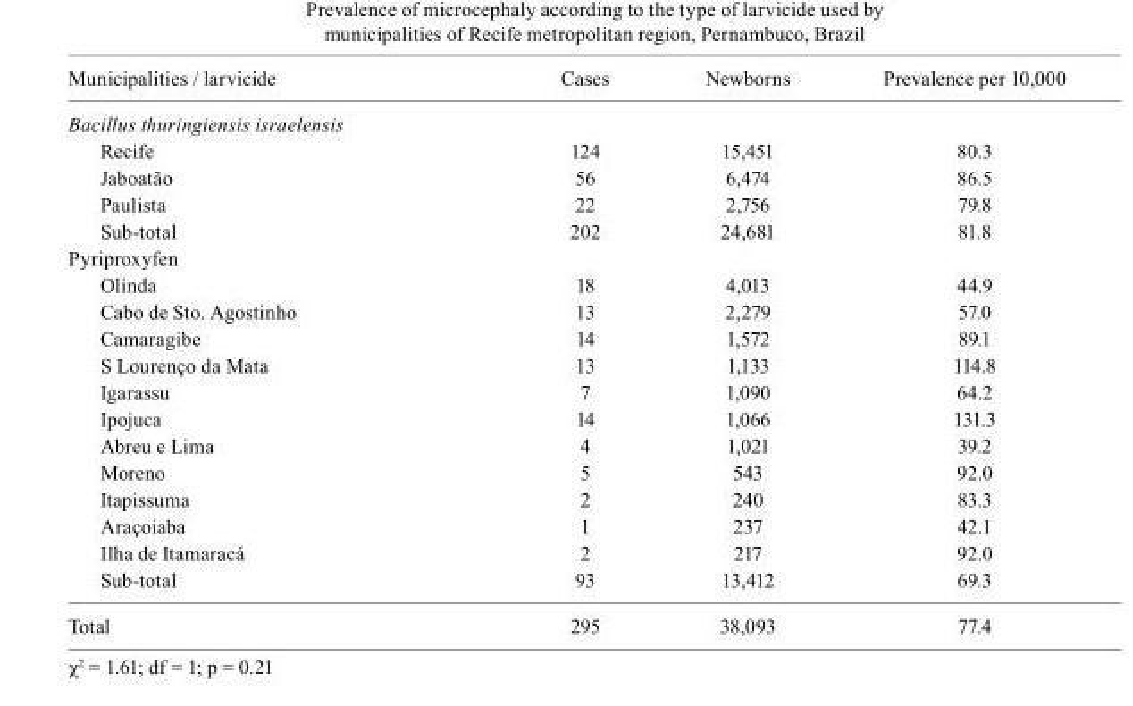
<table><thead><tr><td>Municipalities / larvicide</td><td>Cases</td><td>Newborns</td><td>Prevalence per 10,000</td></tr></thead><tbody><tr><td colspan="4">Bacillus thuringiensis israelensis</td></tr><tr><td>Recife</td><td>124</td><td>15,451</td><td>80.3</td></tr><tr><td>Jaboatão</td><td>56</td><td>6,474</td><td>86.5</td></tr><tr><td>Paulista</td><td>22</td><td>2,756</td><td>79.8</td></tr><tr><td>Sub-total</td><td>202</td><td>24,681</td><td>81.8</td></tr><tr><td colspan="4">Pyriproxyfen</td></tr><tr><td>Olinda</td><td>18</td><td>4,013</td><td>44.9</td></tr><tr><td>Cabo de Sto. Agostinho</td><td>13</td><td>2,279</td><td>57.0</td></tr><tr><td>Camaragibe</td><td>14</td><td>1,572</td><td>89.1</td></tr><tr><td>S Lourenço da Mata</td><td>13</td><td>1,133</td><td>114.8</td></tr><tr><td>Igarassu</td><td>7</td><td>1,090</td><td>64.2</td></tr><tr><td>Ipojuca</td><td>14</td><td>1,066</td><td>131.3</td></tr><tr><td>Abreu e Lima</td><td>4</td><td>1,021</td><td>39.2</td></tr><tr><td>Moreno</td><td>5</td><td>543</td><td>92.0</td></tr><tr><td>Itapissuma</td><td>2</td><td>240</td><td>83.3</td></tr><tr><td>Araçoiaba</td><td>1</td><td>237</td><td>42.1</td></tr><tr><td>Ilha de Itamaracá</td><td>2</td><td>217</td><td>92.0</td></tr><tr><td>Sub-total</td><td>93</td><td>13,412</td><td>69.3</td></tr><tr><td>Total</td><td>295</td><td>38,093</td><td>77.4</td></tr></tbody></table>